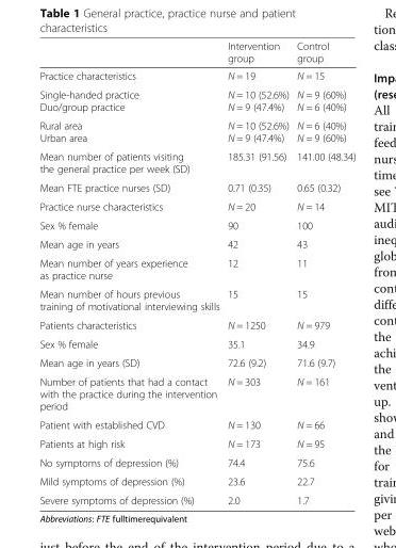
<table><thead><tr><td></td><td>Intervention group</td><td>Control group</td></tr></thead><tbody><tr><td>Practice characteristics</td><td>N = 19</td><td>N = 15</td></tr><tr><td>Single-handed practice Duo/group practice</td><td>N = 10 (52.6%) N = 9 (47.4%)</td><td>N = 9 (60%) N = 6 (40%)</td></tr><tr><td>Rural area Urban area</td><td>N = 10 (52.6%) N = 9 (47.4%)</td><td>N = 6 (40%) N = 9 (60%)</td></tr><tr><td>Mean number of patients visiting the general practice per week (SD)</td><td>185.31 (91.56)</td><td>141.00 (48.34)</td></tr><tr><td>Mean FTE practice nurses (SD)</td><td>0.71 (0.35)</td><td>0.65 (0.32)</td></tr><tr><td>Practice nurse characteristics</td><td>N = 20</td><td>N = 14</td></tr><tr><td>Sex % female</td><td>90</td><td>100</td></tr><tr><td>Mean age in years</td><td>42</td><td>43</td></tr><tr><td>Mean number of years experience as practice nurse</td><td>12</td><td>11</td></tr><tr><td>Mean number of hours previous training of motivational interviewing skills</td><td>15</td><td>15</td></tr><tr><td>Patients characteristics</td><td>N = 1250</td><td>N = 979</td></tr><tr><td>Sex % female</td><td>35.1</td><td>34.9</td></tr><tr><td>Mean age in years (SD)</td><td>72.6 (9.2)</td><td>71.6 (9.7)</td></tr><tr><td>Number of patients that had a contact with the practice during the intervention period</td><td>N = 303</td><td>N = 161</td></tr><tr><td>Patient with established CVD</td><td>N = 130</td><td>N = 66</td></tr><tr><td>Patients at high risk</td><td>N = 173</td><td>N = 95</td></tr><tr><td>No symptoms of depression (%)</td><td>74.4</td><td>75.6</td></tr><tr><td>Mild symptoms of depression (%)</td><td>23.6</td><td>22.7</td></tr><tr><td>Severe symptoms of depression (%)</td><td>2.0</td><td>1.7</td></tr></tbody></table>